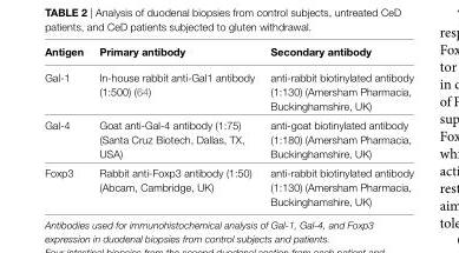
<table><thead><tr><td>Antigen</td><td>Primary antibody</td><td>secondary antibody</td></tr></thead><tbody><tr><td>Gal-1</td><td>In-house rabbit anti-Gal1 antibody (1:500) (64)</td><td>anti-rabbit biotinylated antibody (1:130) (Amersham Pharmacia, Buckinghamshire, UK)</td></tr><tr><td>Gal-4</td><td>Goat anti-Gal-4 antibody (1:75) (Santa Cruz Biotech, Dallas, TX, USA)</td><td>anti-goat biotinylated antibody (1:180) (Amersham Pharmacia, Buckinghamshire, UK)</td></tr><tr><td>Foxp3</td><td>Rabbit anti-Foxp3 antibody (1:50) (Abcam, Cambridge, UK)</td><td>anti-rabbit biotinylated antibody (1:130) (Amersham Pharmacia, Buckinghamshire, UK)</td></tr></tbody></table>